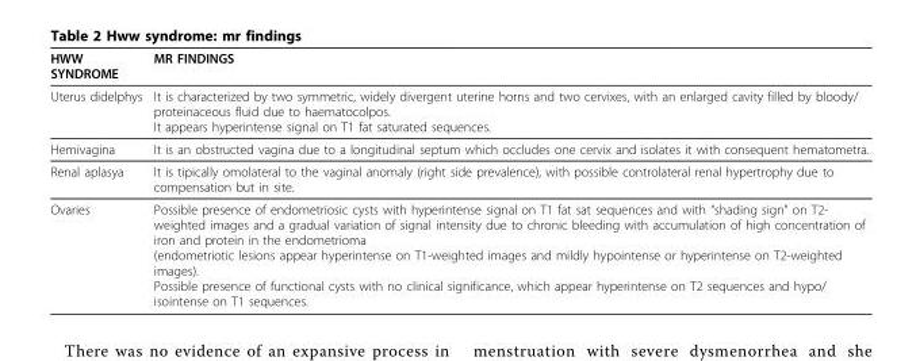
<table><thead><tr><td>HWW SYNDROME</td><td>MR FINDINGS</td></tr></thead><tbody><tr><td>Uterus didelphys</td><td>It is characterized by two symmetric, widely divergent uterine horns and two cervixes, with an enlarged cavity filled by bloody/ proteinaceous fluid due to haematocolpos. It appears hyperintense signal on T1 fat saturated sequences.</td></tr><tr><td>Hemivagina</td><td>It is an obstructed vagina due to a longitudinal septum which occludes one cervix and isolates it with consequent hematometra.</td></tr><tr><td>Renal aplasya</td><td>It is tipically omolateral to the vaginal anomaly (right side prevalence), with possible controlateral renal hypertrophy due to compensation but in site.</td></tr><tr><td>Ovaries</td><td>Possible presence of endometriosic cysts with hyperintense signal on T1 fat sat sequences and with “shading sign” on T2- weighted images and a gradual variation of signal intensity due to chronic bleeding with accumulation of high concentration of iron and protein in the endometrioma (endometriotic lesions appear hyperintense on T1-weighted images and mildly hypointense or hyperintense on T2-weighted images). Possible presence of functional cysts with no clinical significance, which appear hyperintense on T2 sequences and hypo/ isointense on T1 sequences.</td></tr></tbody></table>